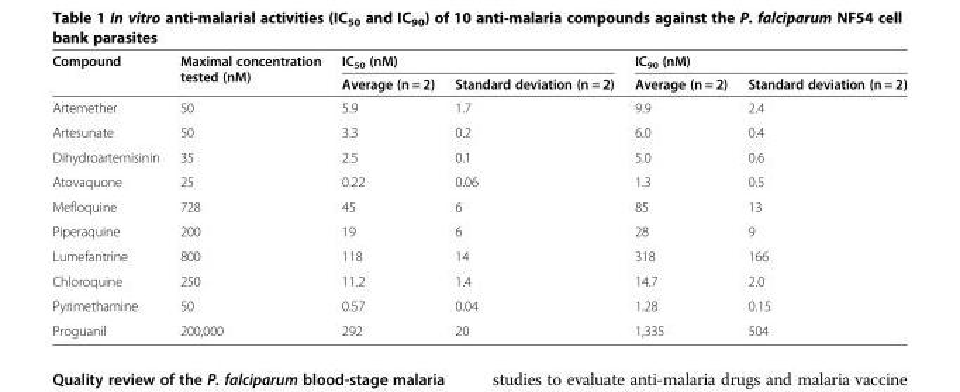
<table><thead><tr><td rowspan="2">Compound</td><td rowspan="2">Maximal concentration tested (nM)</td><td colspan="2">IC<sub>50</sub> (nM)</td><td colspan="2">IC<sub>90</sub> (nM)</td></tr><tr><td>Average (n = 2)</td><td>Standard deviation (n = 2)</td><td>Average (n = 2)</td><td>Standard deviation (n = 2)</td></tr></thead><tbody><tr><td>Artemether</td><td>50</td><td>5.9</td><td>1.7</td><td>9.9</td><td>2.4</td></tr><tr><td>Artesunate</td><td>50</td><td>3.3</td><td>0.2</td><td>6.0</td><td>0.4</td></tr><tr><td>Dihydroartemisinin</td><td>35</td><td>2.5</td><td>0.1</td><td>5.0</td><td>0.6</td></tr><tr><td>Atovaquone</td><td>25</td><td>0.22</td><td>0.06</td><td>1.3</td><td>0.5</td></tr><tr><td>Mefloquine</td><td>728</td><td>45</td><td>6</td><td>85</td><td>13</td></tr><tr><td>Piperaquine</td><td>200</td><td>19</td><td>6</td><td>28</td><td>9</td></tr><tr><td>Lumefantrine</td><td>800</td><td>118</td><td>14</td><td>318</td><td>166</td></tr><tr><td>Chloroquine</td><td>250</td><td>11.2</td><td>1.4</td><td>14.7</td><td>2.0</td></tr><tr><td>Pyrimethamine</td><td>50</td><td>0.57</td><td>0.04</td><td>1.28</td><td>0.15</td></tr><tr><td>Proguanil</td><td>200,000</td><td>292</td><td>20</td><td>1,335</td><td>504</td></tr></tbody></table>